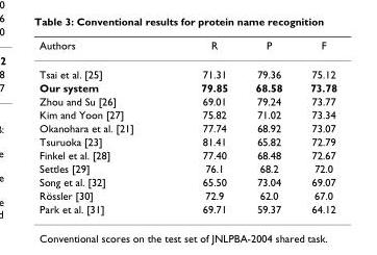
<table><thead><tr><td>Authors</td><td>R</td><td>P</td><td>F</td></tr></thead><tbody><tr><td>Tsai et al. [25]</td><td>71.31</td><td>79.36</td><td>75.12</td></tr><tr><td>Our system</td><td>79.85</td><td>68.58</td><td>73.78</td></tr><tr><td>Zhou and Su [26]</td><td>69.01</td><td>79.24</td><td>73.77</td></tr><tr><td>Kim and Yoon [27]</td><td>75.82</td><td>71.02</td><td>73.34</td></tr><tr><td>Okanohara et al. [21]</td><td>77.74</td><td>68.92</td><td>73.07</td></tr><tr><td>Tsuruoka [23]</td><td>81.41</td><td>65.82</td><td>72.79</td></tr><tr><td>Finkel et al. [28]</td><td>77.40</td><td>68.48</td><td>72.67</td></tr><tr><td>Settles [29]</td><td>76.1</td><td>68.2</td><td>72.0</td></tr><tr><td>Song et al. [32]</td><td>65.50</td><td>73.04</td><td>69.07</td></tr><tr><td>Rössler [30]</td><td>72.9</td><td>62.0</td><td>67.0</td></tr><tr><td>Park et al. [31]</td><td>69.71</td><td>59.37</td><td>64.12</td></tr></tbody></table>